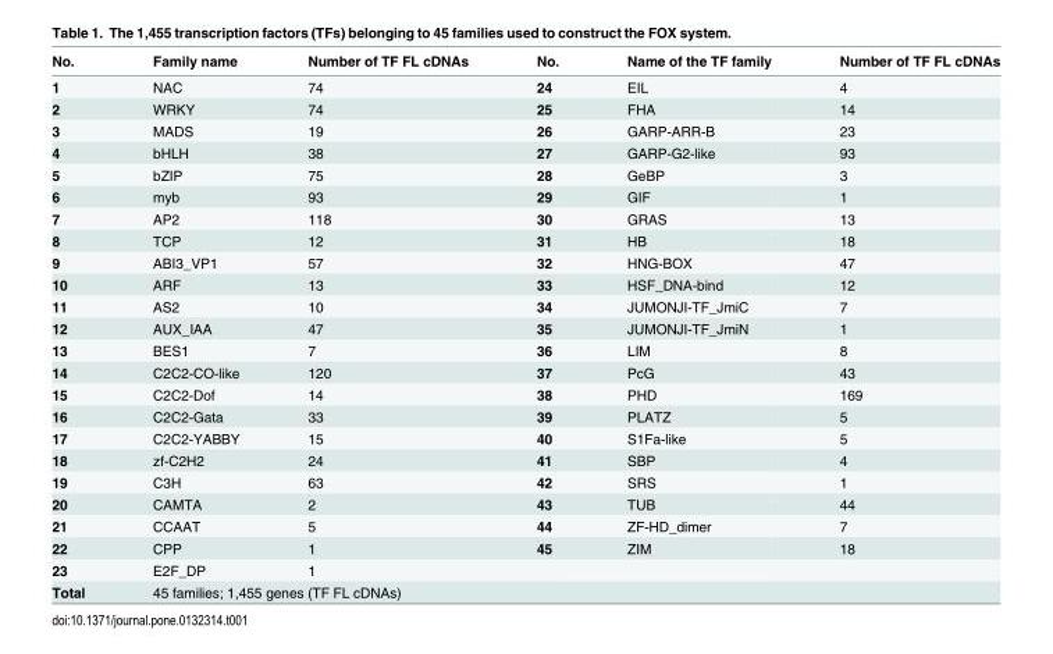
<table><thead><tr><td>No.</td><td>Family name</td><td>Number of TF FL cDNAs</td><td>No.</td><td>Name of the TF family</td><td>Number of TF FL cDNAs</td></tr></thead><tbody><tr><td>1</td><td>NAC</td><td>74</td><td>24</td><td>EIL</td><td>4</td></tr><tr><td>2</td><td>WRKY</td><td>74</td><td>25</td><td>FHA</td><td>14</td></tr><tr><td>3</td><td>MADS</td><td>19</td><td>26</td><td>GARP-ARR-B</td><td>23</td></tr><tr><td>4</td><td>bHLH</td><td>38</td><td>27</td><td>GARP-G2-like</td><td>93</td></tr><tr><td>5</td><td>bZIP</td><td>75</td><td>28</td><td>GeBP</td><td>3</td></tr><tr><td>6</td><td>myb</td><td>93</td><td>29</td><td>GIF</td><td>1</td></tr><tr><td>7</td><td>AP2</td><td>118</td><td>30</td><td>GRAS</td><td>13</td></tr><tr><td>8</td><td>TCP</td><td>12</td><td>31</td><td>HB</td><td>18</td></tr><tr><td>9</td><td>ABI3_VP1</td><td>57</td><td>32</td><td>HNG-BOX</td><td>47</td></tr><tr><td>10</td><td>ARF</td><td>13</td><td>33</td><td>HSF_DNA-bind</td><td>12</td></tr><tr><td>11</td><td>AS2</td><td>10</td><td>34</td><td>JUMONJI-TF_JmiC</td><td>7</td></tr><tr><td>12</td><td>AUX_IAA</td><td>47</td><td>35</td><td>JUMONJI-TF_JmiN</td><td>1</td></tr><tr><td>13</td><td>BES1</td><td>7</td><td>36</td><td>LIM</td><td>8</td></tr><tr><td>14</td><td>C2C2-CO-like</td><td>120</td><td>37</td><td>PcG</td><td>43</td></tr><tr><td>15</td><td>C2C2-Dof</td><td>14</td><td>38</td><td>PHD</td><td>169</td></tr><tr><td>16</td><td>C2C2-Gata</td><td>33</td><td>39</td><td>PLATZ</td><td>5</td></tr><tr><td>17</td><td>C2C2-YABBY</td><td>15</td><td>40</td><td>S1Fa-like</td><td>5</td></tr><tr><td>18</td><td>zf-C2H2</td><td>24</td><td>41</td><td>SBP</td><td>4</td></tr><tr><td>19</td><td>C3H</td><td>63</td><td>42</td><td>SRS</td><td>1</td></tr><tr><td>20</td><td>CAMTA</td><td>2</td><td>43</td><td>TUB</td><td>44</td></tr><tr><td>21</td><td>CCAAT</td><td>5</td><td>44</td><td>ZF-HD_dimer</td><td>7</td></tr><tr><td>22</td><td>CPP</td><td>1</td><td>45</td><td>ZIM</td><td>18</td></tr><tr><td>23</td><td>E2F_DP</td><td>1</td><td></td><td></td><td></td></tr><tr><td>Total</td><td colspan="5">45 families; 1,455 genes (TF FL cDNAs)</td></tr></tbody></table>